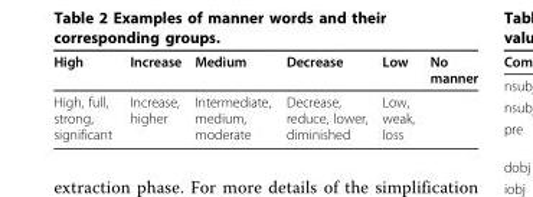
<table><thead><tr><td>High</td><td>Increase</td><td>Medium</td><td>Decrease</td><td>Low</td><td>No manner</td></tr></thead><tbody><tr><td>High, full, strong, significant</td><td>Increase, higher</td><td>Intermediate, medium, moderate</td><td>Decrease, reduce, lower, diminished</td><td>Low, weak, loss</td><td></td></tr></tbody></table>